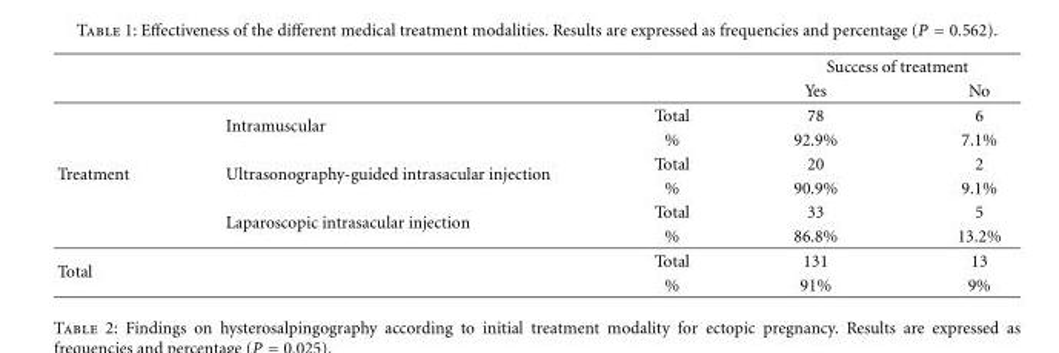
<table><thead><tr><td rowspan="2"></td><td rowspan="2"></td><td rowspan="2"></td><td colspan="2">Success of treatment</td></tr><tr><td>Yes</td><td>No</td></tr></thead><tbody><tr><td rowspan="6">Treatment</td><td rowspan="2">Intramuscular</td><td>Total</td><td>78</td><td>6</td></tr><tr><td>%</td><td>92.9%</td><td>7.1%</td></tr><tr><td rowspan="2">Ultrasonography-guided intrasacular injection</td><td>Total</td><td>20</td><td>2</td></tr><tr><td>%</td><td>90.9%</td><td>9.1%</td></tr><tr><td rowspan="2">Laparoscopic intrasacular injection</td><td>Total</td><td>33</td><td>5</td></tr><tr><td>%</td><td>86.8%</td><td>13.2%</td></tr><tr><td rowspan="2">Total</td><td rowspan="2"></td><td>Total</td><td>131</td><td>13</td></tr><tr><td>%</td><td>91%</td><td>9%</td></tr></tbody></table>